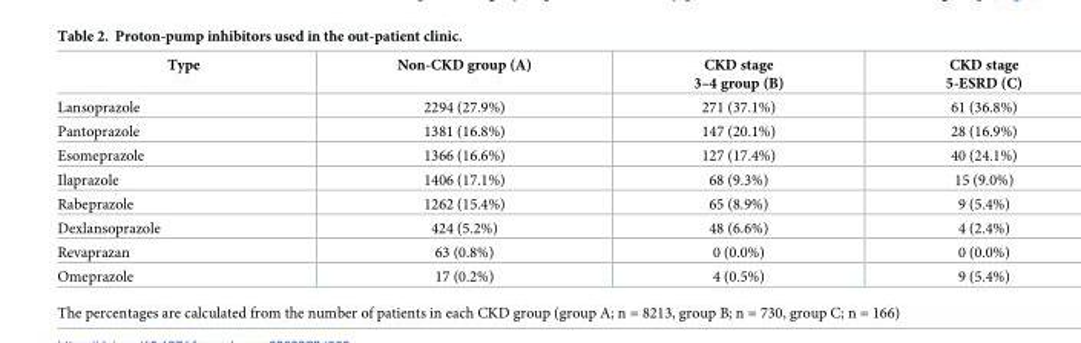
<table><thead><tr><td>Type</td><td>Non-CKD group (A)</td><td>CKD stage 3–4 group (B)</td><td>CKD stage 5-ESRD (C)</td></tr></thead><tbody><tr><td>Lansoprazole</td><td>2294 (27.9%)</td><td>271 (37.1%)</td><td>61 (36.8%)</td></tr><tr><td>Pantoprazole</td><td>1381 (16.8%)</td><td>147 (20.1%)</td><td>28 (16.9%)</td></tr><tr><td>Esomeprazole</td><td>1366 (16.6%)</td><td>127 (17.4%)</td><td>40 (24.1%)</td></tr><tr><td>Ilaprazole</td><td>1406 (17.1%)</td><td>68 (9.3%)</td><td>15 (9.0%)</td></tr><tr><td>Rabeprazole</td><td>1262 (15.4%)</td><td>65 (8.9%)</td><td>9 (5.4%)</td></tr><tr><td>Dexlansoprazole</td><td>424 (5.2%)</td><td>48 (6.6%)</td><td>4 (2.4%)</td></tr><tr><td>Revaprazan</td><td>63 (0.8%)</td><td>0 (0.0%)</td><td>0 (0.0%)</td></tr><tr><td>Omeprazole</td><td>17 (0.2%)</td><td>4 (0.5%)</td><td>9 (5.4%)</td></tr></tbody></table>